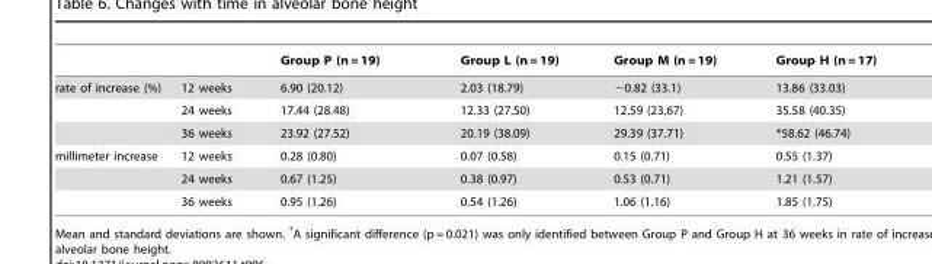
<table><thead><tr><td></td><td></td><td>Group P (n = 19)</td><td>Group L (n = 19)</td><td>Group M (n = 19)</td><td>Group H (n = 17)</td></tr></thead><tbody><tr><td rowspan="3">rate of increase (%)</td><td>12 weeks</td><td>6.90 (20.12)</td><td>2.03 (18.79)</td><td>−0.82 (33.1)</td><td>13.86 (33.03)</td></tr><tr><td>24 weeks</td><td>17.44 (28.48)</td><td>12.33 (27.50)</td><td>12.59 (23.67)</td><td>35.58 (40.35)</td></tr><tr><td>36 weeks</td><td>23.92 (27.52)</td><td>20.19 (38.09)</td><td>29.39 (37.71)</td><td>*58.62 (46.74)</td></tr><tr><td rowspan="3">millimeter increase</td><td>12 weeks</td><td>0.28 (0.80)</td><td>0.07 (0.58)</td><td>0.15 (0.71)</td><td>0.55 (1.37)</td></tr><tr><td>24 weeks</td><td>0.67 (1.25)</td><td>0.38 (0.97)</td><td>0.53 (0.71)</td><td>1.21 (1.57)</td></tr><tr><td>36 weeks</td><td>0.95 (1.26)</td><td>0.54 (1.26)</td><td>1.06 (1.16)</td><td>1.85 (1.75)</td></tr></tbody></table>